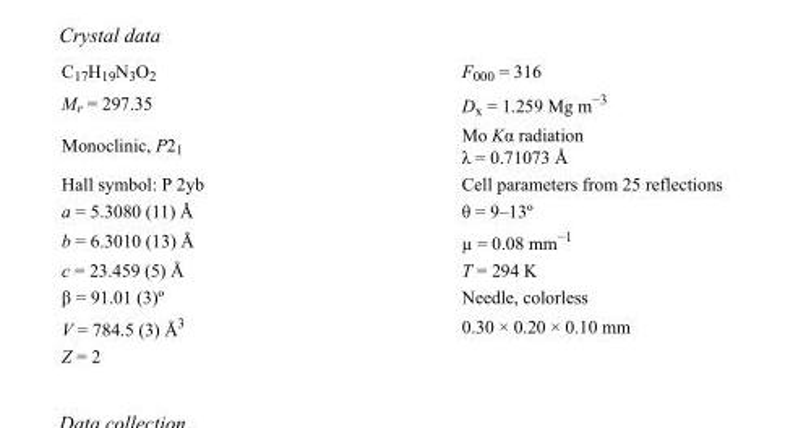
<table><tbody><tr><td>C<sub>17</sub>H<sub>19</sub>N<sub>3</sub>O<sub>2</sub></td><td>F000 = 316</td></tr><tr><td>M<sub>r</sub> = 297.35</td><td>D<sub>x</sub> = 1.259 Mg m<sup>−3</sup></td></tr><tr><td>Monoclinic, P2<sub>1</sub></td><td>Mo Kα radiation λ = 0.71073 Å</td></tr><tr><td>Hall symbol: P 2yb</td><td>Cell parameters from 25 reflections</td></tr><tr><td>a = 5.3080 (11) Å</td><td>θ = 9–13º</td></tr><tr><td>b = 6.3010 (13) Å</td><td>µ = 0.08 mm<sup>−1</sup></td></tr><tr><td>c = 23.459 (5) Å</td><td>T = 294 K</td></tr><tr><td>β = 91.01 (3)º</td><td>Needle, colorless</td></tr><tr><td>V = 784.5 (3) Å<sup>3</sup></td><td>0.30 × 0.20 × 0.10 mm</td></tr><tr><td>Z = 2</td><td></td></tr></tbody></table>